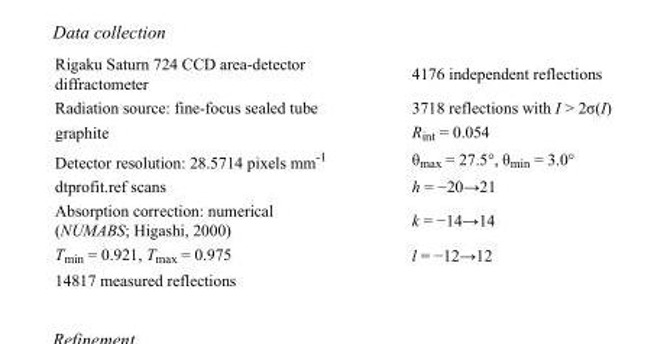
<table><tbody><tr><td>Rigaku Saturn 724 CCD area-detector diffractometer</td><td>4176 independent reflections</td></tr><tr><td>Radiation source: fine-focus sealed tube</td><td>3718 reflections with I &gt; 2σ(I)</td></tr><tr><td>graphite</td><td>R<sub>int</sub> = 0.054</td></tr><tr><td>Detector resolution: 28.5714 pixels mm<sup>-1</sup></td><td>θ<sub>max</sub> = 27.5°, θ<sub>min</sub> = 3.0°</td></tr><tr><td>dtprofit.ref scans</td><td>h = −20→21</td></tr><tr><td>Absorption correction: numerical (NUMABS; Higashi, 2000)</td><td>k = −14→14</td></tr><tr><td>T<sub>min</sub> = 0.921, T<sub>max</sub> = 0.975</td><td>l = −12→12</td></tr><tr><td>14817 measured reflections</td><td></td></tr></tbody></table>